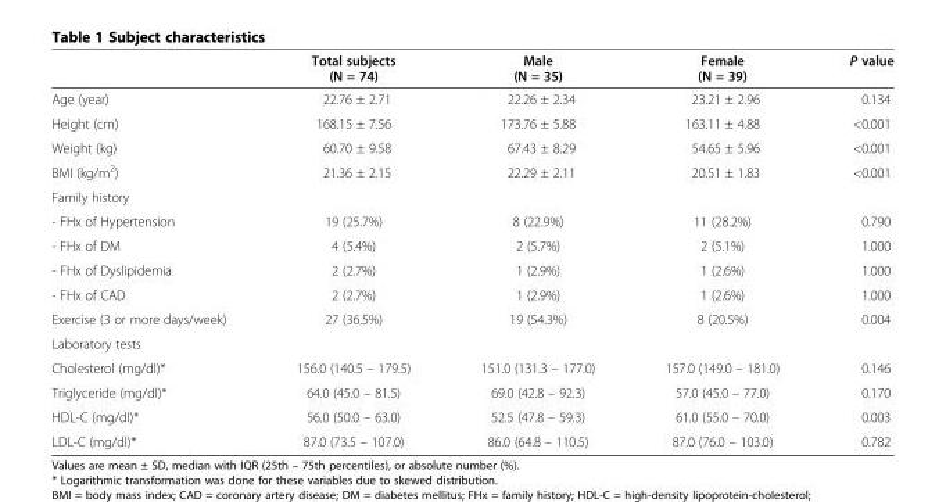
<table><thead><tr><td></td><td>Total subjects (N = 74)</td><td>Male (N = 35)</td><td>Female (N = 39)</td><td>P value</td></tr></thead><tbody><tr><td>Age (year)</td><td>22.76 ± 2.71</td><td>22.26 ± 2.34</td><td>23.21 ± 2.96</td><td>0.134</td></tr><tr><td>Height (cm)</td><td>168.15 ± 7.56</td><td>173.76 ± 5.88</td><td>163.11 ± 4.88</td><td>&lt;0.001</td></tr><tr><td>Weight (kg)</td><td>60.70 ± 9.58</td><td>67.43 ± 8.29</td><td>54.65 ± 5.96</td><td>&lt;0.001</td></tr><tr><td>BMI (kg/m<sup>2</sup>)</td><td>21.36 ± 2.15</td><td>22.29 ± 2.11</td><td>20.51 ± 1.83</td><td>&lt;0.001</td></tr><tr><td colspan="5">Family history</td></tr><tr><td>- FHx of Hypertension</td><td>19 (25.7%)</td><td>8 (22.9%)</td><td>11 (28.2%)</td><td>0.790</td></tr><tr><td>- FHx of DM</td><td>4 (5.4%)</td><td>2 (5.7%)</td><td>2 (5.1%)</td><td>1.000</td></tr><tr><td>- FHx of Dyslipidemia</td><td>2 (2.7%)</td><td>1 (2.9%)</td><td>1 (2.6%)</td><td>1.000</td></tr><tr><td>- FHx of CAD</td><td>2 (2.7%)</td><td>1 (2.9%)</td><td>1 (2.6%)</td><td>1.000</td></tr><tr><td>Exercise (3 or more days/week)</td><td>27 (36.5%)</td><td>19 (54.3%)</td><td>8 (20.5%)</td><td>0.004</td></tr><tr><td colspan="5">Laboratory tests</td></tr><tr><td>Cholesterol (mg/dl)*</td><td>156.0 (140.5 – 179.5)</td><td>151.0 (131.3 – 177.0)</td><td>157.0 (149.0 – 181.0)</td><td>0.146</td></tr><tr><td>Triglyceride (mg/dl)*</td><td>64.0 (45.0 – 81.5)</td><td>69.0 (42.8 – 92.3)</td><td>57.0 (45.0 – 77.0)</td><td>0.170</td></tr><tr><td>HDL-C (mg/dl)*</td><td>56.0 (50.0 – 63.0)</td><td>52.5 (47.8 – 59.3)</td><td>61.0 (55.0 – 70.0)</td><td>0.003</td></tr><tr><td>LDL-C (mg/dl)*</td><td>87.0 (73.5 – 107.0)</td><td>86.0 (64.8 – 110.5)</td><td>87.0 (76.0 – 103.0)</td><td>0.782</td></tr></tbody></table>